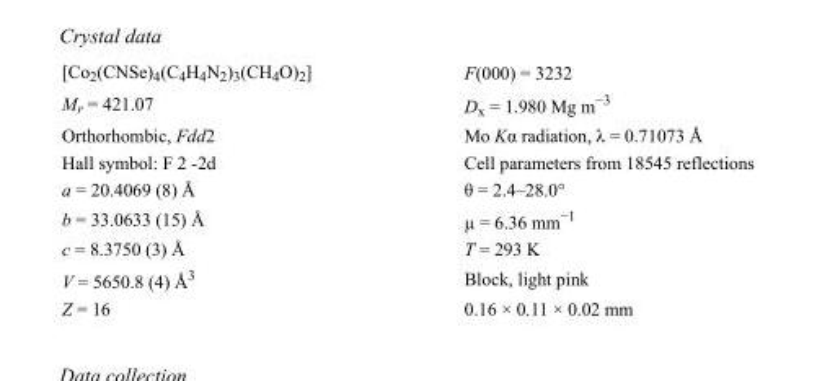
<table><tbody><tr><td>[Co<sub>2</sub>(CNSe)<sub>4</sub>(C<sub>4</sub>H<sub>4</sub>N<sub>2</sub>)<sub>3</sub>(CH<sub>4</sub>O)<sub>2</sub>]</td><td>F(000) = 3232</td></tr><tr><td>M<sub>r</sub> = 421.07</td><td>D<sub>x</sub> = 1.980 Mg m<sup>−3</sup></td></tr><tr><td>Orthorhombic, Fdd2</td><td>Mo Kα radiation, λ = 0.71073 Å</td></tr><tr><td>Hall symbol: F 2 -2d</td><td>Cell parameters from 18545 reflections</td></tr><tr><td>a = 20.4069 (8) Å</td><td>θ = 2.4–28.0°</td></tr><tr><td>b = 33.0633 (15) Å</td><td>µ = 6.36 mm<sup>−1</sup></td></tr><tr><td>c = 8.3750 (3) Å</td><td>T = 293 K</td></tr><tr><td>V = 5650.8 (4) Å<sup>3</sup></td><td>Block, light pink</td></tr><tr><td>Z = 16</td><td>0.16 × 0.11 × 0.02 mm</td></tr></tbody></table>